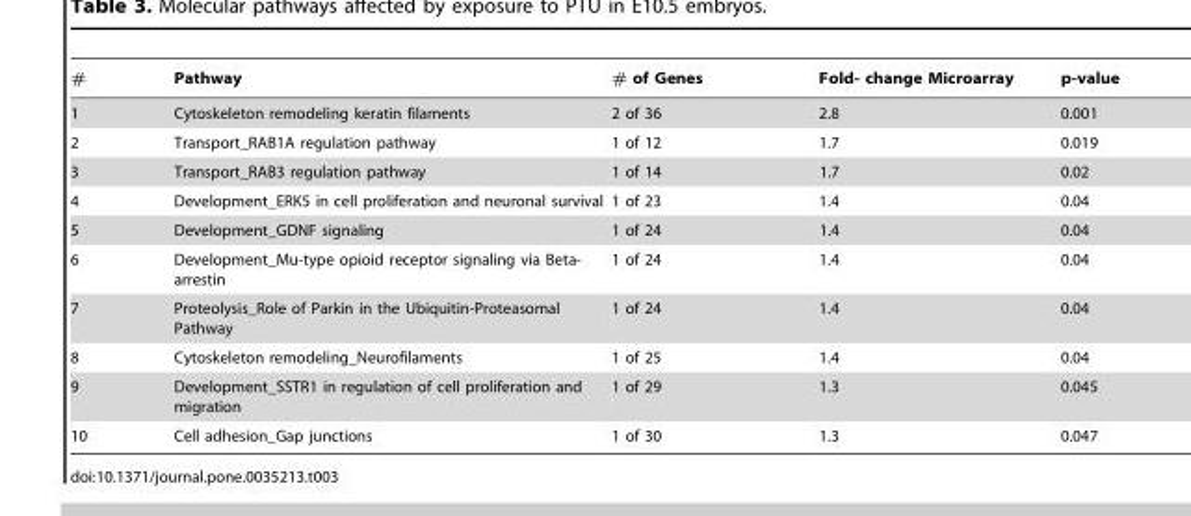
<table><thead><tr><td>#</td><td>Pathway</td><td># of Genes</td><td>Fold- change Microarray</td><td>p-value</td></tr></thead><tbody><tr><td>1</td><td>Cytoskeleton remodeling keratin filaments</td><td>2 of 36</td><td>2.8</td><td>0.001</td></tr><tr><td>2</td><td>Transport_RAB1A regulation pathway</td><td>1 of 12</td><td>1.7</td><td>0.019</td></tr><tr><td>3</td><td>Transport_RAB3 regulation pathway</td><td>1 of 14</td><td>1.7</td><td>0.02</td></tr><tr><td>4</td><td>Development_ERK5 in cell proliferation and neuronal survival</td><td>1 of 23</td><td>1.4</td><td>0.04</td></tr><tr><td>5</td><td>Development_GDNF signaling</td><td>1 of 24</td><td>1.4</td><td>0.04</td></tr><tr><td>6</td><td>Development_Mu-type opioid receptor signaling via Beta- arrestin</td><td>1 of 24</td><td>1.4</td><td>0.04</td></tr><tr><td>7</td><td>Proteolysis_Role of Parkin in the Ubiquitin-Proteasomal Pathway</td><td>1 of 24</td><td>1.4</td><td>0.04</td></tr><tr><td>8</td><td>Cytoskeleton remodeling_Neurofilaments</td><td>1 of 25</td><td>1.4</td><td>0.04</td></tr><tr><td>9</td><td>Development_SSTR1 in regulation of cell proliferation and migration</td><td>1 of 29</td><td>1.3</td><td>0.045</td></tr><tr><td>10</td><td>Cell adhesion_Gap junctions</td><td>1 of 30</td><td>1.3</td><td>0.047</td></tr></tbody></table>